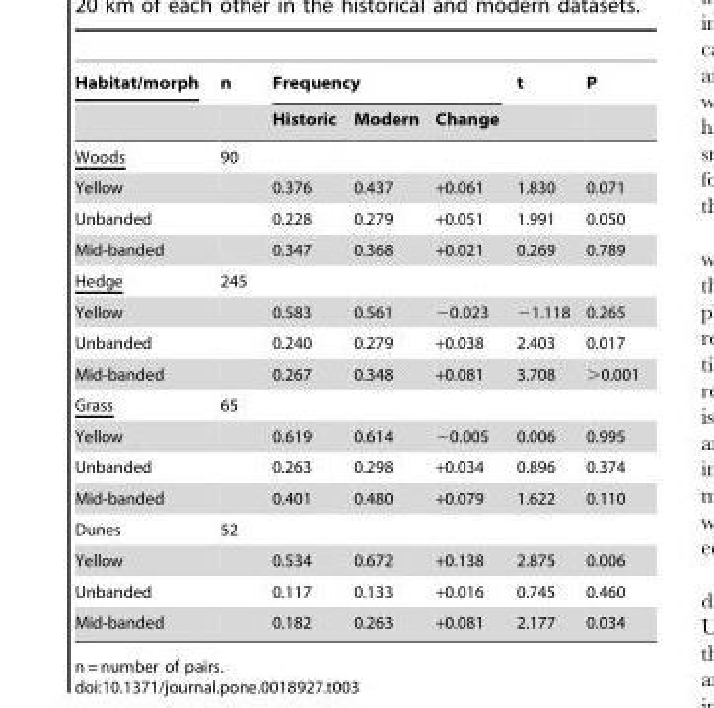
<table><thead><tr><td rowspan="2">Habitat/morph</td><td rowspan="2">n</td><td colspan="3">Frequency</td><td rowspan="2">t</td><td rowspan="2">P</td></tr><tr><td>Historic</td><td>Modern</td><td>Change</td></tr></thead><tbody><tr><td>Woods</td><td>90</td><td></td><td></td><td></td><td></td><td></td></tr><tr><td>Yellow</td><td></td><td>0.376</td><td>0.437</td><td>+0.061</td><td>1.830</td><td>0.071</td></tr><tr><td>Unbanded</td><td></td><td>0.228</td><td>0.279</td><td>+0.051</td><td>1.991</td><td>0.050</td></tr><tr><td>Mid-banded</td><td></td><td>0.347</td><td>0.368</td><td>+0.021</td><td>0.269</td><td>0.789</td></tr><tr><td>Hedge</td><td>245</td><td></td><td></td><td></td><td></td><td></td></tr><tr><td>Yellow</td><td></td><td>0.583</td><td>0.561</td><td>−0.023</td><td>−1.118</td><td>0.265</td></tr><tr><td>Unbanded</td><td></td><td>0.240</td><td>0.279</td><td>+0.038</td><td>2.403</td><td>0.017</td></tr><tr><td>Mid-banded</td><td></td><td>0.267</td><td>0.348</td><td>+0.081</td><td>3.708</td><td>&gt;0.001</td></tr><tr><td>Grass</td><td>65</td><td></td><td></td><td></td><td></td><td></td></tr><tr><td>Yellow</td><td></td><td>0.619</td><td>0.614</td><td>−0.005</td><td>0.006</td><td>0.995</td></tr><tr><td>Unbanded</td><td></td><td>0.263</td><td>0.298</td><td>+0.034</td><td>0.896</td><td>0.374</td></tr><tr><td>Mid-banded</td><td></td><td>0.401</td><td>0.480</td><td>+0.079</td><td>1.622</td><td>0.110</td></tr><tr><td>Dunes</td><td>52</td><td></td><td></td><td></td><td></td><td></td></tr><tr><td>Yellow</td><td></td><td>0.534</td><td>0.672</td><td>+0.138</td><td>2.875</td><td>0.006</td></tr><tr><td>Unbanded</td><td></td><td>0.117</td><td>0.133</td><td>+0.016</td><td>0.745</td><td>0.460</td></tr><tr><td>Mid-banded</td><td></td><td>0.182</td><td>0.263</td><td>+0.081</td><td>2.177</td><td>0.034</td></tr></tbody></table>